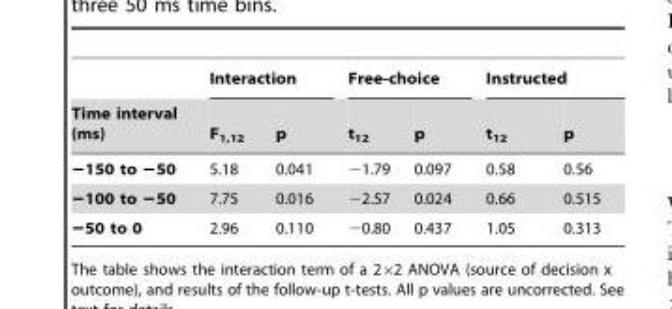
<table><thead><tr><td rowspan="2">Time interval (ms)</td><td colspan="2">Interaction</td><td colspan="2">Free-choice</td><td colspan="2">Instructed</td></tr><tr><td>F<sub>1,12</sub></td><td>p</td><td>t<sub>12</sub></td><td>p</td><td>t<sub>12</sub></td><td>p</td></tr></thead><tbody><tr><td>−150 to −50</td><td>5.18</td><td>0.041</td><td>−1.79</td><td>0.097</td><td>0.58</td><td>0.56</td></tr><tr><td>−100 to −50</td><td>7.75</td><td>0.016</td><td>−2.57</td><td>0.024</td><td>0.66</td><td>0.515</td></tr><tr><td>−50 to 0</td><td>2.96</td><td>0.110</td><td>−0.80</td><td>0.437</td><td>1.05</td><td>0.313</td></tr></tbody></table>